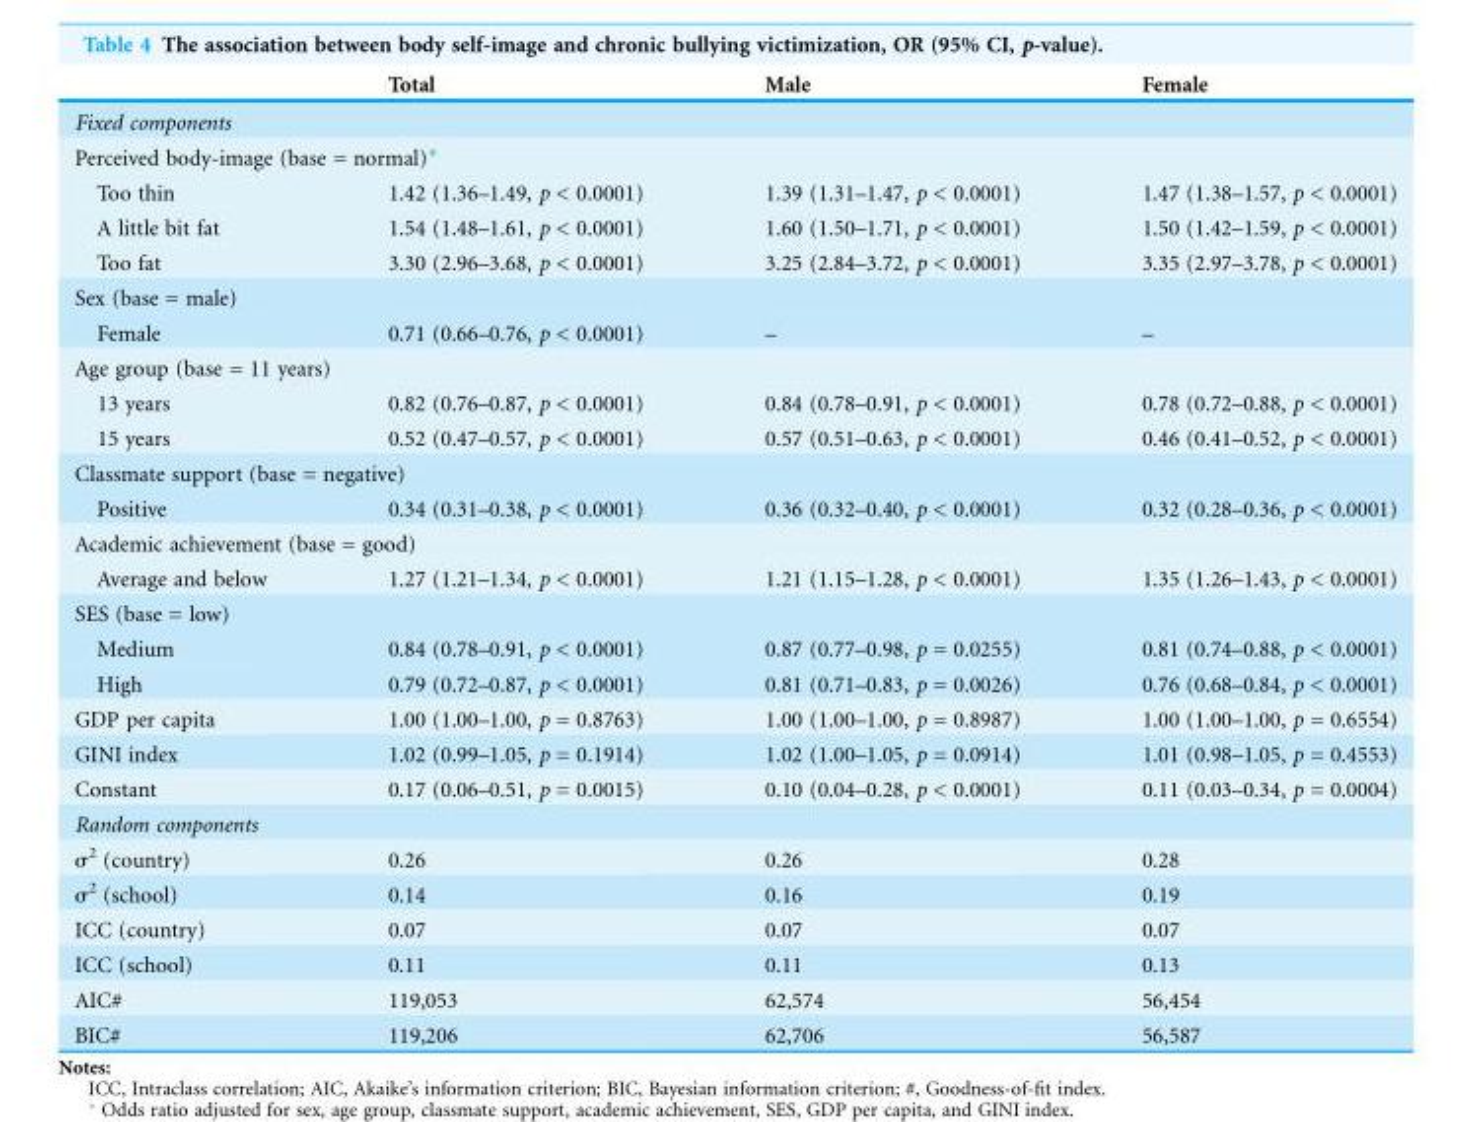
<table><thead><tr><td></td><td>Total</td><td>Male</td><td>Female</td></tr></thead><tbody><tr><td colspan="4">Fixed components</td></tr><tr><td colspan="4">Perceived body-image (base = normal)*</td></tr><tr><td>Too thin</td><td>1.42 (1.36–1.49, p &lt; 0.0001)</td><td>1.39 (1.31–1.47, p &lt; 0.0001)</td><td>1.47 (1.38–1.57, p &lt; 0.0001)</td></tr><tr><td>A little bit fat</td><td>1.54 (1.48–1.61, p &lt; 0.0001)</td><td>1.60 (1.50–1.71, p &lt; 0.0001)</td><td>1.50 (1.42–1.59, p &lt; 0.0001)</td></tr><tr><td>Too fat</td><td>3.30 (2.96–3.68, p &lt; 0.0001)</td><td>3.25 (2.84–3.72, p &lt; 0.0001)</td><td>3.35 (2.97–3.78, p &lt; 0.0001)</td></tr><tr><td colspan="4">Sex (base = male)</td></tr><tr><td>Female</td><td>0.71 (0.66–0.76, p &lt; 0.0001)</td><td>–</td><td>–</td></tr><tr><td colspan="4">Age group (base = 11 years)</td></tr><tr><td>13 years</td><td>0.82 (0.76–0.87, p &lt; 0.0001)</td><td>0.84 (0.78–0.91, p &lt; 0.0001)</td><td>0.78 (0.72–0.88, p &lt; 0.0001)</td></tr><tr><td>15 years</td><td>0.52 (0.47–0.57, p &lt; 0.0001)</td><td>0.57 (0.51–0.63, p &lt; 0.0001)</td><td>0.46 (0.41–0.52, p &lt; 0.0001)</td></tr><tr><td colspan="4">Classmate support (base = negative)</td></tr><tr><td>Positive</td><td>0.34 (0.31–0.38, p &lt; 0.0001)</td><td>0.36 (0.32–0.40, p &lt; 0.0001)</td><td>0.32 (0.28–0.36, p &lt; 0.0001)</td></tr><tr><td colspan="4">Academic achievement (base = good)</td></tr><tr><td>Average and below</td><td>1.27 (1.21–1.34, p &lt; 0.0001)</td><td>1.21 (1.15–1.28, p &lt; 0.0001)</td><td>1.35 (1.26–1.43, p &lt; 0.0001)</td></tr><tr><td colspan="4">SES (base = low)</td></tr><tr><td>Medium</td><td>0.84 (0.78–0.91, p &lt; 0.0001)</td><td>0.87 (0.77–0.98, p = 0.0255)</td><td>0.81 (0.74–0.88, p &lt; 0.0001)</td></tr><tr><td>High</td><td>0.79 (0.72–0.87, p &lt; 0.0001)</td><td>0.81 (0.71–0.83, p = 0.0026)</td><td>0.76 (0.68–0.84, p &lt; 0.0001)</td></tr><tr><td>GDP per capita</td><td>1.00 (1.00–1.00, p = 0.8763)</td><td>1.00 (1.00–1.00, p = 0.8987)</td><td>1.00 (1.00–1.00, p = 0.6554)</td></tr><tr><td>GINI index</td><td>1.02 (0.99–1.05, p = 0.1914)</td><td>1.02 (1.00–1.05, p = 0.0914)</td><td>1.01 (0.98–1.05, p = 0.4553)</td></tr><tr><td>Constant</td><td>0.17 (0.06–0.51, p = 0.0015)</td><td>0.10 (0.04–0.28, p &lt; 0.0001)</td><td>0.11 (0.03–0.34, p = 0.0004)</td></tr><tr><td colspan="4">Random components</td></tr><tr><td>σ<sup>2</sup> (country)</td><td>0.26</td><td>0.26</td><td>0.28</td></tr><tr><td>σ<sup>2</sup> (school)</td><td>0.14</td><td>0.16</td><td>0.19</td></tr><tr><td>ICC (country)</td><td>0.07</td><td>0.07</td><td>0.07</td></tr><tr><td>ICC (school)</td><td>0.11</td><td>0.11</td><td>0.13</td></tr><tr><td>AIC#</td><td>119,053</td><td>62,574</td><td>56,454</td></tr><tr><td>BIC#</td><td>119,206</td><td>62,706</td><td>56,587</td></tr></tbody></table>